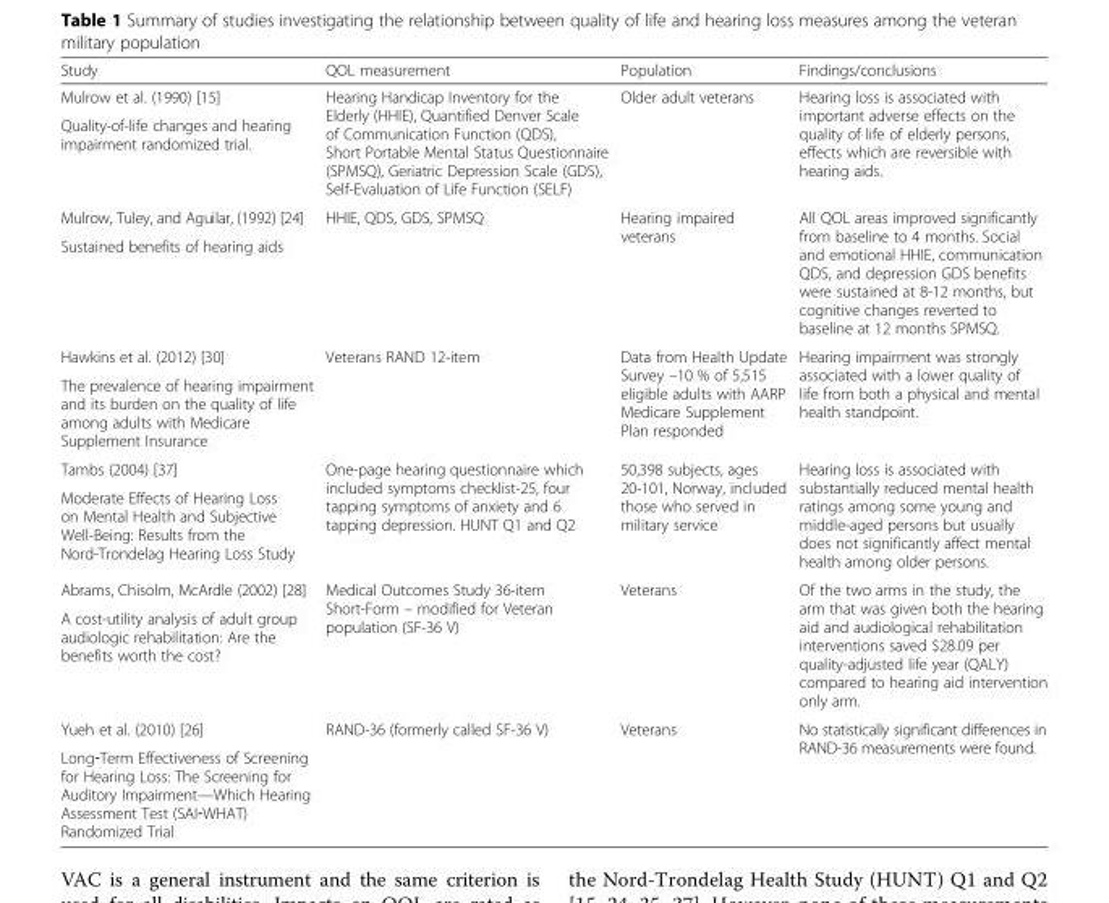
<table><thead><tr><td>Study</td><td>QOL measurement</td><td>Population</td><td>Findings/conclusions</td></tr></thead><tbody><tr><td>Mulrow et al. (1990) [15]</td><td rowspan="2">Hearing Handicap Inventory for the Elderly (HHIE), Quantified Denver Scale of Communication Function (QDS), Short Portable Mental Status Questionnaire (SPMSQ), Geriatric Depression Scale (GDS), Self-Evaluation of Life Function (SELF)</td><td rowspan="2">Older adult veterans</td><td rowspan="2">Hearing loss is associated with important adverse effects on the quality of life of elderly persons, effects which are reversible with hearing aids.</td></tr><tr><td>Quality-of-life changes and hearing impairment randomized trial.</td></tr><tr><td>Mulrow, Tuley, and Aguilar, (1992) [24]</td><td rowspan="2">HHIE, QDS, GDS, SPMSQ</td><td rowspan="2">Hearing impaired veterans</td><td rowspan="2">All QOL areas improved significantly from baseline to 4 months. Social and emotional HHIE, communication QDS, and depression GDS benefits were sustained at 8-12 months, but cognitive changes reverted to baseline at 12 months SPMSQ.</td></tr><tr><td>Sustained benefits of hearing aids</td></tr><tr><td>Hawkins et al. (2012) [30]</td><td rowspan="2">Veterans RAND 12-item</td><td rowspan="2">Data from Health Update Survey –10 % of 5,515 eligible adults with AARP Medicare Supplement Plan responded</td><td rowspan="2">Hearing impairment was strongly associated with a lower quality of life from both a physical and mental health standpoint.</td></tr><tr><td>The prevalence of hearing impairment and its burden on the quality of life among adults with Medicare Supplement Insurance</td></tr><tr><td>Tambs (2004) [37]</td><td rowspan="2">One-page hearing questionnaire which included symptoms checklist-25, four tapping symptoms of anxiety and 6 tapping depression. HUNT Q1 and Q2</td><td rowspan="2">50,398 subjects, ages 20-101, Norway, included those who served in military service</td><td rowspan="2">Hearing loss is associated with substantially reduced mental health ratings among some young and middle-aged persons but usually does not significantly affect mental health among older persons.</td></tr><tr><td>Moderate Effects of Hearing Loss on Mental Health and Subjective Well-Being: Results from the Nord-Trondelag Hearing Loss Study</td></tr><tr><td>Abrams, Chisolm, McArdle (2002) [28]</td><td rowspan="2">Medical Outcomes Study 36-item Short-Form – modified for Veteran population (SF-36 V)</td><td rowspan="2">Veterans</td><td rowspan="2">Of the two arms in the study, the arm that was given both the hearing aid and audiological rehabilitation interventions saved $28.09 per quality-adjusted life year (QALY) compared to hearing aid intervention only arm.</td></tr><tr><td>A cost-utility analysis of adult group audiologic rehabilitation: Are the benefits worth the cost?</td></tr><tr><td>Yueh et al. (2010) [26]</td><td rowspan="2">RAND-36 (formerly called SF-36 V)</td><td rowspan="2">Veterans</td><td rowspan="2">No statistically significant differences in RAND-36 measurements were found.</td></tr><tr><td>Long‐Term Effectiveness of Screening for Hearing Loss: The Screening for Auditory Impairment—Which Hearing Assessment Test (SAI‐WHAT) Randomized Trial</td></tr></tbody></table>